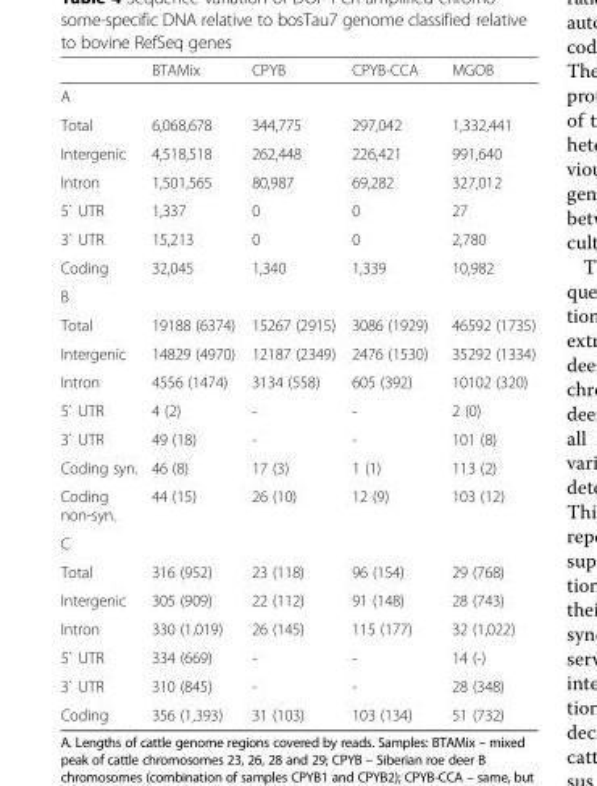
<table><thead><tr><td></td><td>BTAMix</td><td>CPYB</td><td>CPYB-CCA</td><td>MGOB</td></tr></thead><tbody><tr><td colspan="5">A</td></tr><tr><td>Total</td><td>6,068,678</td><td>344,775</td><td>297,042</td><td>1,332,441</td></tr><tr><td>Intergenic</td><td>4,518,518</td><td>262,448</td><td>226,421</td><td>991,640</td></tr><tr><td>Intron</td><td>1,501,565</td><td>80,987</td><td>69,282</td><td>327,012</td></tr><tr><td>5` UTR</td><td>1,337</td><td>0</td><td>0</td><td>27</td></tr><tr><td>3` UTR</td><td>15,213</td><td>0</td><td>0</td><td>2,780</td></tr><tr><td>Coding</td><td>32,045</td><td>1,340</td><td>1,339</td><td>10,982</td></tr><tr><td colspan="5">B</td></tr><tr><td>Total</td><td>19188 (6374)</td><td>15267 (2915)</td><td>3086 (1929)</td><td>46592 (1735)</td></tr><tr><td>Intergenic</td><td>14829 (4970)</td><td>12187 (2349)</td><td>2476 (1530)</td><td>35292 (1334)</td></tr><tr><td>Intron</td><td>4556 (1474)</td><td>3134 (558)</td><td>605 (392)</td><td>10102 (320)</td></tr><tr><td>5` UTR</td><td>4 (2)</td><td>-</td><td>-</td><td>2 (0)</td></tr><tr><td>3` UTR</td><td>49 (18)</td><td>-</td><td>-</td><td>101 (8)</td></tr><tr><td>Coding syn.</td><td>46 (8)</td><td>17 (3)</td><td>1 (1)</td><td>113 (2)</td></tr><tr><td>Coding non-syn.</td><td>44 (15)</td><td>26 (10)</td><td>12 (9)</td><td>103 (12)</td></tr><tr><td colspan="5">C</td></tr><tr><td>Total</td><td>316 (952)</td><td>23 (118)</td><td>96 (154)</td><td>29 (768)</td></tr><tr><td>Intergenic</td><td>305 (909)</td><td>22 (112)</td><td>91 (148)</td><td>28 (743)</td></tr><tr><td>Intron</td><td>330 (1,019)</td><td>26 (145)</td><td>115 (177)</td><td>32 (1,022)</td></tr><tr><td>5` UTR</td><td>334 (669)</td><td>-</td><td>-</td><td>14 (-)</td></tr><tr><td>3` UTR</td><td>310 (845)</td><td>-</td><td>-</td><td>28 (348)</td></tr><tr><td>Coding</td><td>356 (1,393)</td><td>31 (103)</td><td>103 (134)</td><td>51 (732)</td></tr></tbody></table>